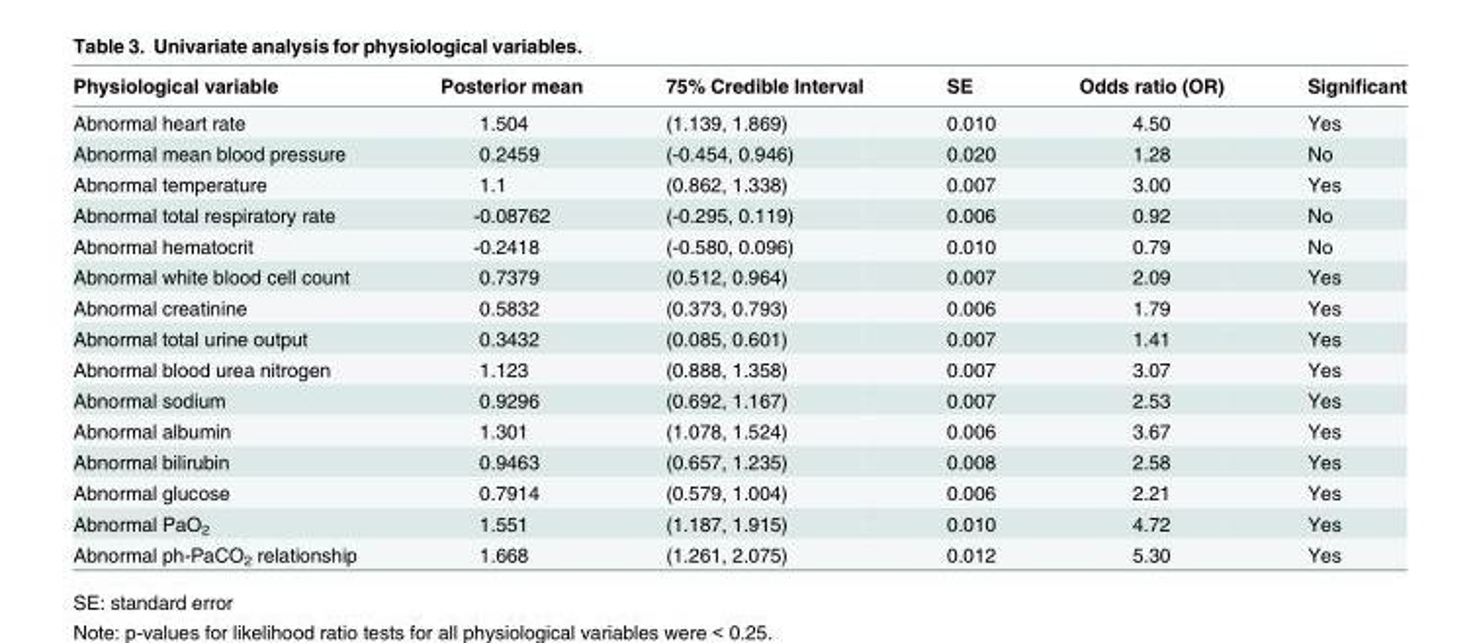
<table><thead><tr><td>Physiological variable</td><td>Posterior mean</td><td>75% Credible Interval</td><td>SE</td><td>Odds ratio (OR)</td><td>Significant</td></tr></thead><tbody><tr><td>Abnormal heart rate</td><td>1.504</td><td>(1.139, 1.869)</td><td>0.010</td><td>4.50</td><td>Yes</td></tr><tr><td>Abnormal mean blood pressure</td><td>0.2459</td><td>(-0.454, 0.946)</td><td>0.020</td><td>1.28</td><td>No</td></tr><tr><td>Abnormal temperature</td><td>1.1</td><td>(0.862, 1.338)</td><td>0.007</td><td>3.00</td><td>Yes</td></tr><tr><td>Abnormal total respiratory rate</td><td>-0.08762</td><td>(-0.295, 0.119)</td><td>0.006</td><td>0.92</td><td>No</td></tr><tr><td>Abnormal hematocrit</td><td>-0.2418</td><td>(-0.580, 0.096)</td><td>0.010</td><td>0.79</td><td>No</td></tr><tr><td>Abnormal white blood cell count</td><td>0.7379</td><td>(0.512, 0.964)</td><td>0.007</td><td>2.09</td><td>Yes</td></tr><tr><td>Abnormal creatinine</td><td>0.5832</td><td>(0.373, 0.793)</td><td>0.006</td><td>1.79</td><td>Yes</td></tr><tr><td>Abnormal total urine output</td><td>0.3432</td><td>(0.085, 0.601)</td><td>0.007</td><td>1.41</td><td>Yes</td></tr><tr><td>Abnormal blood urea nitrogen</td><td>1.123</td><td>(0.888, 1.358)</td><td>0.007</td><td>3.07</td><td>Yes</td></tr><tr><td>Abnormal sodium</td><td>0.9296</td><td>(0.692, 1.167)</td><td>0.007</td><td>2.53</td><td>Yes</td></tr><tr><td>Abnormal albumin</td><td>1.301</td><td>(1.078, 1.524)</td><td>0.006</td><td>3.67</td><td>Yes</td></tr><tr><td>Abnormal bilirubin</td><td>0.9463</td><td>(0.657, 1.235)</td><td>0.008</td><td>2.58</td><td>Yes</td></tr><tr><td>Abnormal glucose</td><td>0.7914</td><td>(0.579, 1.004)</td><td>0.006</td><td>2.21</td><td>Yes</td></tr><tr><td>Abnormal PaO<sub>2</sub></td><td>1.551</td><td>(1.187, 1.915)</td><td>0.010</td><td>4.72</td><td>Yes</td></tr><tr><td>Abnormal ph-PaCO<sub>2</sub> relationship</td><td>1.668</td><td>(1.261, 2.075)</td><td>0.012</td><td>5.30</td><td>Yes</td></tr></tbody></table>